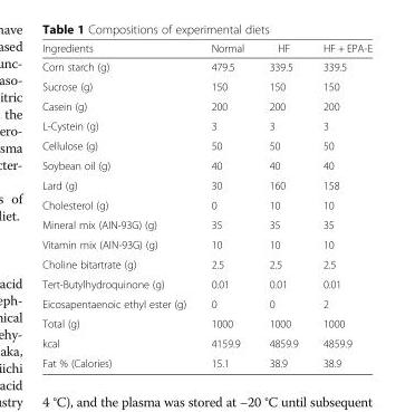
<table><thead><tr><td>Ingredients</td><td>Normal</td><td>HF</td><td>HF + EPA-E</td></tr></thead><tbody><tr><td>Corn starch (g)</td><td>479.5</td><td>339.5</td><td>339.5</td></tr><tr><td>Sucrose (g)</td><td>150</td><td>150</td><td>150</td></tr><tr><td>Casein (g)</td><td>200</td><td>200</td><td>200</td></tr><tr><td>L-Cystein (g)</td><td>3</td><td>3</td><td>3</td></tr><tr><td>Cellulose (g)</td><td>50</td><td>50</td><td>50</td></tr><tr><td>Soybean oil (g)</td><td>40</td><td>40</td><td>40</td></tr><tr><td>Lard (g)</td><td>30</td><td>160</td><td>158</td></tr><tr><td>Cholesterol (g)</td><td>0</td><td>10</td><td>10</td></tr><tr><td>Mineral mix (AIN-93G) (g)</td><td>35</td><td>35</td><td>35</td></tr><tr><td>Vitamin mix (AIN-93G) (g)</td><td>10</td><td>10</td><td>10</td></tr><tr><td>Choline bitartrate (g)</td><td>2.5</td><td>2.5</td><td>2.5</td></tr><tr><td>Tert-Butylhydroquinone (g)</td><td>0.01</td><td>0.01</td><td>0.01</td></tr><tr><td>Eicosapentaenoic ethyl ester (g)</td><td>0</td><td>0</td><td>2</td></tr><tr><td>Total (g)</td><td>1000</td><td>1000</td><td>1000</td></tr><tr><td>kcal</td><td>4159.9</td><td>4859.9</td><td>4859.9</td></tr><tr><td>Fat % (Calories)</td><td>15.1</td><td>38.9</td><td>38.9</td></tr></tbody></table>